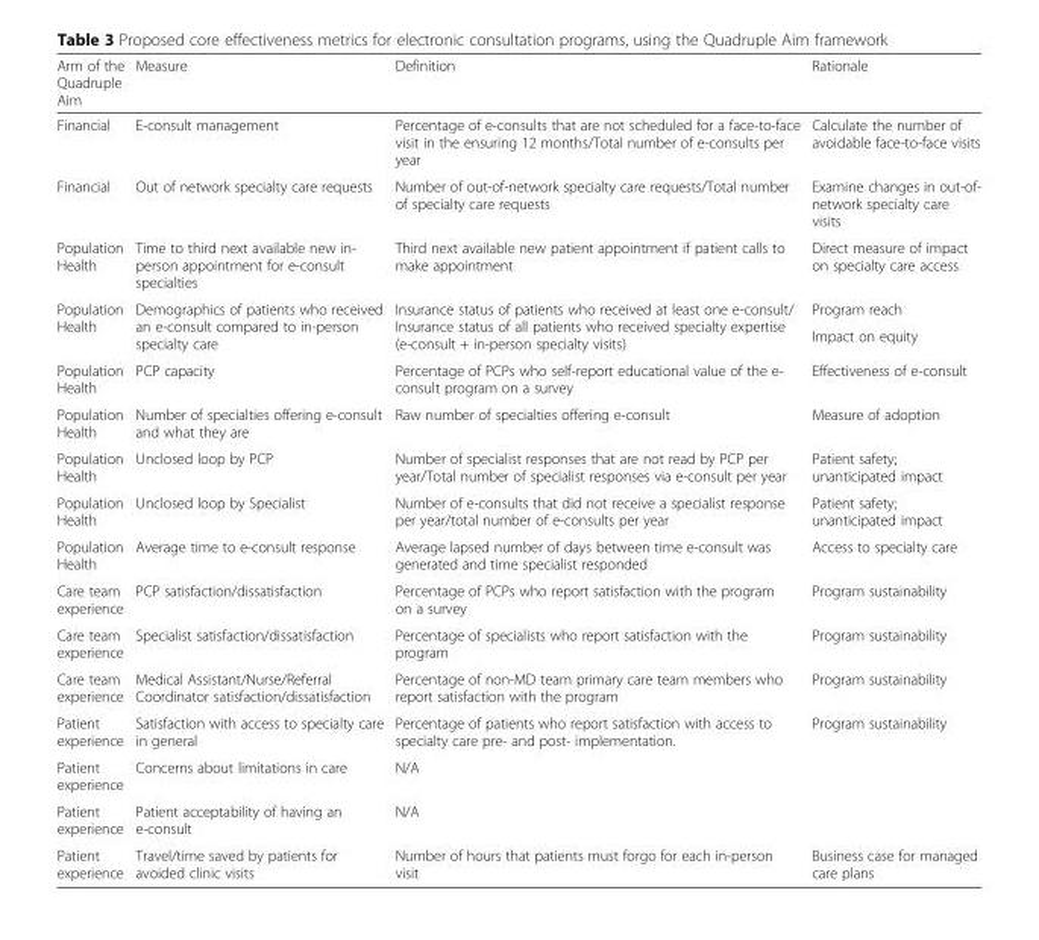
<table><thead><tr><td>Arm of the Quadruple Aim</td><td>Measure</td><td>Definition</td><td>Rationale</td></tr></thead><tbody><tr><td>Financial</td><td>E-consult management</td><td>Percentage of e-consults that are not scheduled for a face-to-face visit in the ensuring 12 months/Total number of e-consults per year</td><td>Calculate the number of avoidable face-to-face visits</td></tr><tr><td>Financial</td><td>Out of network specialty care requests</td><td>Number of out-of-network specialty care requests/Total number of specialty care requests</td><td>Examine changes in out-of- network specialty care visits</td></tr><tr><td>Population Health</td><td>Time to third next available new in- person appointment for e-consult specialties</td><td>Third next available new patient appointment if patient calls to make appointment</td><td>Direct measure of impact on specialty care access</td></tr><tr><td rowspan="2">Population Health</td><td rowspan="2">Demographics of patients who received an e-consult compared to in-person specialty care</td><td rowspan="2">Insurance status of patients who received at least one e-consult/ Insurance status of all patients who received specialty expertise (e-consult + in-person specialty visits)</td><td>Program reach</td></tr><tr><td>Impact on equity</td></tr><tr><td>Population Health</td><td>PCP capacity</td><td>Percentage of PCPs who self-report educational value of the e- consult program on a survey</td><td>Effectiveness of e-consult</td></tr><tr><td>Population Health</td><td>Number of specialties offering e-consult and what they are</td><td>Raw number of specialties offering e-consult</td><td>Measure of adoption</td></tr><tr><td>Population Health</td><td>Unclosed loop by PCP</td><td>Number of specialist responses that are not read by PCP per year/Total number of specialist responses via e-consult per year</td><td>Patient safety; unanticipated impact</td></tr><tr><td>Population Health</td><td>Unclosed loop by Specialist</td><td>Number of e-consults that did not receive a specialist response per year/total number of e-consults per year</td><td>Patient safety; unanticipated impact</td></tr><tr><td>Population Health</td><td>Average time to e-consult response</td><td>Average lapsed number of days between time e-consult was generated and time specialist responded</td><td>Access to specialty care</td></tr><tr><td>Care team experience</td><td>PCP satisfaction/dissatisfaction</td><td>Percentage of PCPs who report satisfaction with the program on a survey</td><td>Program sustainability</td></tr><tr><td>Care team experience</td><td>Specialist satisfaction/dissatisfaction</td><td>Percentage of specialists who report satisfaction with the program</td><td>Program sustainability</td></tr><tr><td>Care team experience</td><td>Medical Assistant/Nurse/Referral Coordinator satisfaction/dissatisfaction</td><td>Percentage of non-MD team primary care team members who report satisfaction with the program</td><td>Program sustainability</td></tr><tr><td>Patient experience</td><td>Satisfaction with access to specialty care in general</td><td>Percentage of patients who report satisfaction with access to specialty care pre- and post- implementation.</td><td rowspan="3">Program sustainability</td></tr><tr><td>Patient experience</td><td>Concerns about limitations in care</td><td>N/A</td></tr><tr><td>Patient experience</td><td>Patient acceptability of having an e-consult</td><td>N/A</td></tr><tr><td>Patient experience</td><td>Travel/time saved by patients for avoided clinic visits</td><td>Number of hours that patients must forgo for each in-person visit</td><td>Business case for managed care plans</td></tr></tbody></table>